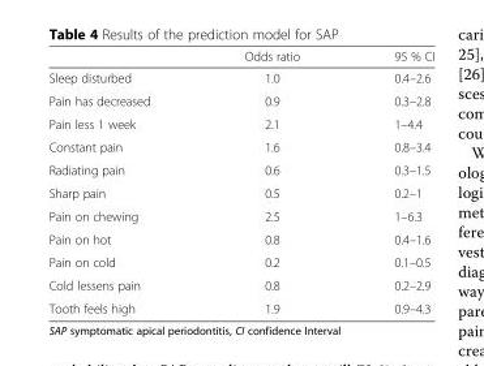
<table><thead><tr><td></td><td>Odds ratio</td><td>95 % CI</td></tr></thead><tbody><tr><td>Sleep disturbed</td><td>1.0</td><td>0.4–2.6</td></tr><tr><td>Pain has decreased</td><td>0.9</td><td>0.3–2.8</td></tr><tr><td>Pain less 1 week</td><td>2.1</td><td>1–4.4</td></tr><tr><td>Constant pain</td><td>1.6</td><td>0.8–3.4</td></tr><tr><td>Radiating pain</td><td>0.6</td><td>0.3–1.5</td></tr><tr><td>Sharp pain</td><td>0.5</td><td>0.2–1</td></tr><tr><td>Pain on chewing</td><td>2.5</td><td>1–6.3</td></tr><tr><td>Pain on hot</td><td>0.8</td><td>0.4–1.6</td></tr><tr><td>Pain on cold</td><td>0.2</td><td>0.1–0.5</td></tr><tr><td>Cold lessens pain</td><td>0.8</td><td>0.2–2.9</td></tr><tr><td>Tooth feels high</td><td>1.9</td><td>0.9–4.3</td></tr></tbody></table>